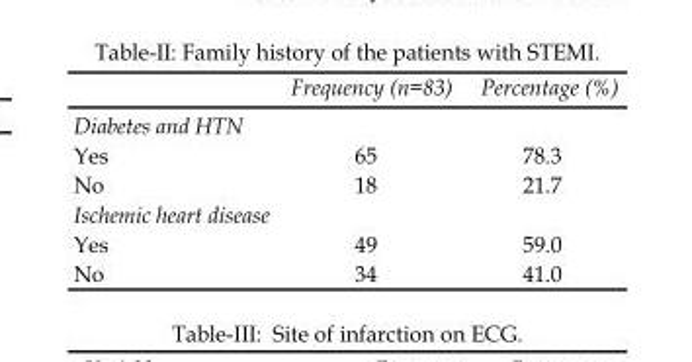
<table><thead><tr><td></td><td>Frequency (n=83)</td><td>Percentage (%)</td></tr></thead><tbody><tr><td colspan="3">Diabetes and HTN</td></tr><tr><td>Yes</td><td>65</td><td>78.3</td></tr><tr><td>No</td><td>18</td><td>21.7</td></tr><tr><td colspan="3">Ischemic heart disease</td></tr><tr><td>Yes</td><td>49</td><td>59.0</td></tr><tr><td>No</td><td>34</td><td>41.0</td></tr></tbody></table>